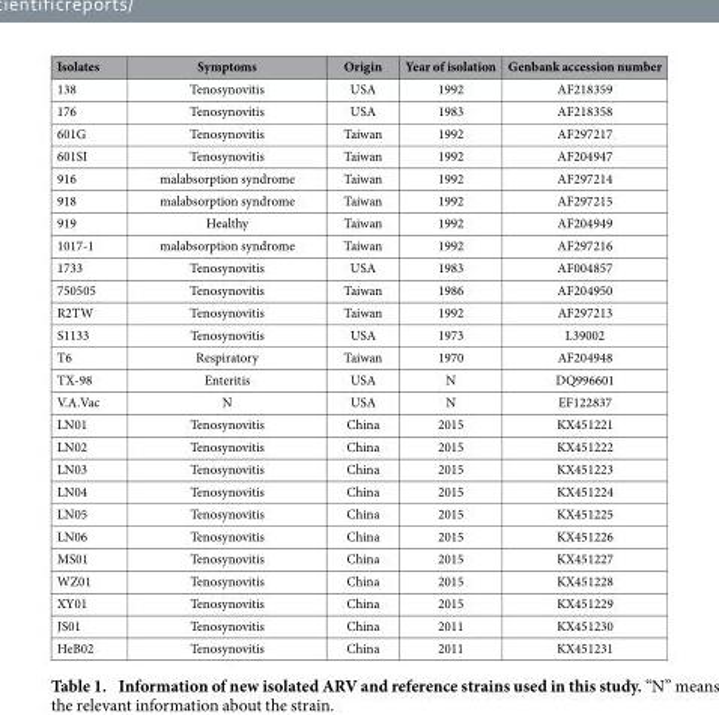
<table><thead><tr><td>Isolates</td><td>Symptoms</td><td>Origin</td><td>Year of isolation</td><td>Genbank accession number</td></tr></thead><tbody><tr><td>138</td><td>Tenosynovitis</td><td>USA</td><td>1992</td><td>AF218359</td></tr><tr><td>176</td><td>Tenosynovitis</td><td>USA</td><td>1983</td><td>AF218358</td></tr><tr><td>601G</td><td>Tenosynovitis</td><td>Taiwan</td><td>1992</td><td>AF297217</td></tr><tr><td>601SI</td><td>Tenosynovitis</td><td>Taiwan</td><td>1992</td><td>AF204947</td></tr><tr><td>916</td><td>malabsorption syndrome</td><td>Taiwan</td><td>1992</td><td>AF297214</td></tr><tr><td>918</td><td>malabsorption syndrome</td><td>Taiwan</td><td>1992</td><td>AF297215</td></tr><tr><td>919</td><td>Healthy</td><td>Taiwan</td><td>1992</td><td>AF204949</td></tr><tr><td>1017-1</td><td>malabsorption syndrome</td><td>Taiwan</td><td>1992</td><td>AF297216</td></tr><tr><td>1733</td><td>Tenosynovitis</td><td>USA</td><td>1983</td><td>AF004857</td></tr><tr><td>750505</td><td>Tenosynovitis</td><td>Taiwan</td><td>1986</td><td>AF204950</td></tr><tr><td>R2TW</td><td>Tenosynovitis</td><td>Taiwan</td><td>1992</td><td>AF297213</td></tr><tr><td>S1133</td><td>Tenosynovitis</td><td>USA</td><td>1973</td><td>L39002</td></tr><tr><td>T6</td><td>Respiratory</td><td>Taiwan</td><td>1970</td><td>AF204948</td></tr><tr><td>TX-98</td><td>Enteritis</td><td>USA</td><td>N</td><td>DQ996601</td></tr><tr><td>V.A.Vac</td><td>N</td><td>USA</td><td>N</td><td>EF122837</td></tr><tr><td>LN01</td><td>Tenosynovitis</td><td>China</td><td>2015</td><td>KX451221</td></tr><tr><td>LN02</td><td>Tenosynovitis</td><td>China</td><td>2015</td><td>KX451222</td></tr><tr><td>LN03</td><td>Tenosynovitis</td><td>China</td><td>2015</td><td>KX451223</td></tr><tr><td>LN04</td><td>Tenosynovitis</td><td>China</td><td>2015</td><td>KX451224</td></tr><tr><td>LN05</td><td>Tenosynovitis</td><td>China</td><td>2015</td><td>KX451225</td></tr><tr><td>LN06</td><td>Tenosynovitis</td><td>China</td><td>2015</td><td>KX451226</td></tr><tr><td>MS01</td><td>Tenosynovitis</td><td>China</td><td>2015</td><td>KX451227</td></tr><tr><td>WZ01</td><td>Tenosynovitis</td><td>China</td><td>2015</td><td>KX451228</td></tr><tr><td>XY01</td><td>Tenosynovitis</td><td>China</td><td>2015</td><td>KX451229</td></tr><tr><td>JS01</td><td>Tenosynovitis</td><td>China</td><td>2011</td><td>KX451230</td></tr><tr><td>HeB02</td><td>Tenosynovitis</td><td>China</td><td>2011</td><td>KX451231</td></tr></tbody></table>